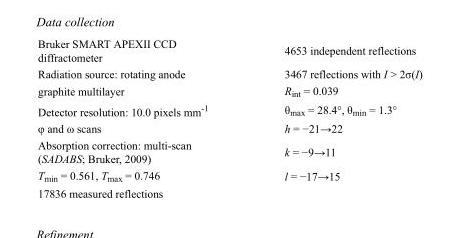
<table><tbody><tr><td>Bruker SMART APEXII CCD diffractometer</td><td>4653 independent reflections</td></tr><tr><td>Radiation source: rotating anode</td><td>3467 reflections with I &gt; 2σ(I)</td></tr><tr><td>graphite multilayer</td><td>R<sub>int</sub> = 0.039</td></tr><tr><td>Detector resolution: 10.0 pixels mm<sup>-1</sup></td><td>θ<sub>max</sub> = 28.4°, θ<sub>min</sub> = 1.3°</td></tr><tr><td>φ and ω scans</td><td>h = −21→22</td></tr><tr><td>Absorption correction: multi-scan (SADABS; Bruker, 2009)</td><td>k = −9→11</td></tr><tr><td>T<sub>min</sub> = 0.561, T<sub>max</sub> = 0.746</td><td>l = −17→15</td></tr><tr><td>17836 measured reflections</td><td></td></tr></tbody></table>